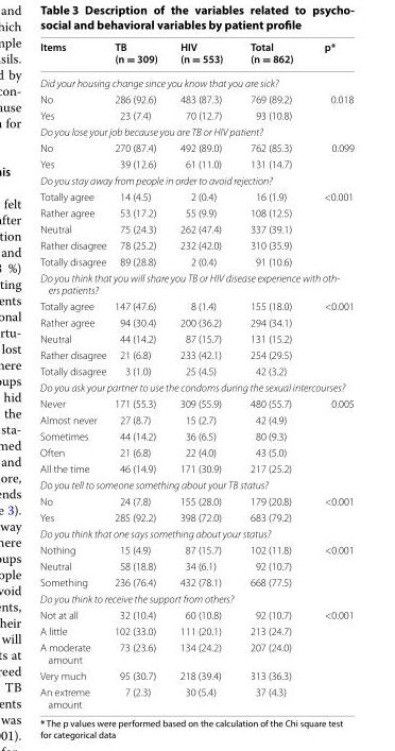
<table><thead><tr><td>Items</td><td>TB (n = 309)</td><td>HIV (n = 553)</td><td>Total (n = 862)</td><td>p*</td></tr></thead><tbody><tr><td colspan="5">Did your housing change since you know that you are sick?</td></tr><tr><td>No</td><td>286 (92.6)</td><td>483 (87.3)</td><td>769 (89.2)</td><td rowspan="2">0.018</td></tr><tr><td>Yes</td><td>23 (7.4)</td><td>70 (12.7)</td><td>93 (10.8)</td></tr><tr><td colspan="5">Do you lose your job because you are TB or HIV patient?</td></tr><tr><td>No</td><td>270 (87.4)</td><td>492 (89.0)</td><td>762 (85.3)</td><td rowspan="2">0.099</td></tr><tr><td>Yes</td><td>39 (12.6)</td><td>61 (11.0)</td><td>131 (14.7)</td></tr><tr><td colspan="5">Do you stay away from people in order to avoid rejection?</td></tr><tr><td>Totally agree</td><td>14 (4.5)</td><td>2 (0.4)</td><td>16 (1.9)</td><td rowspan="5">&lt;0.001</td></tr><tr><td>Rather agree</td><td>53 (17.2)</td><td>55 (9.9)</td><td>108 (12.5)</td></tr><tr><td>Neutral</td><td>75 (24.3)</td><td>262 (47.4)</td><td>337 (39.1)</td></tr><tr><td>Rather disagree</td><td>78 (25.2)</td><td>232 (42.0)</td><td>310 (35.9)</td></tr><tr><td>Totally disagree</td><td>89 (28.8)</td><td>2 (0.4)</td><td>91 (10.6)</td></tr><tr><td colspan="5">Do you think that you will share you TB or HIV disease experience with oth- ers patients?</td></tr><tr><td>Totally agree</td><td>147 (47.6)</td><td>8 (1.4)</td><td>155 (18.0)</td><td rowspan="5">&lt;0.001</td></tr><tr><td>Rather agree</td><td>94 (30.4)</td><td>200 (36.2)</td><td>294 (34.1)</td></tr><tr><td>Neutral</td><td>44 (14.2)</td><td>87 (15.7)</td><td>131 (15.2)</td></tr><tr><td>Rather disagree</td><td>21 (6.8)</td><td>233 (42.1)</td><td>254 (29.5)</td></tr><tr><td>Totally disagree</td><td>3 (1.0)</td><td>25 (4.5)</td><td>42 (3.2)</td></tr><tr><td colspan="5">Do you ask your partner to use the condoms during the sexual intercourses?</td></tr><tr><td>Never</td><td>171 (55.3)</td><td>309 (55.9)</td><td>480 (55.7)</td><td rowspan="5">0.005</td></tr><tr><td>Almost never</td><td>27 (8.7)</td><td>15 (2.7)</td><td>42 (4.9)</td></tr><tr><td>Sometimes</td><td>44 (14.2)</td><td>36 (6.5)</td><td>80 (9.3)</td></tr><tr><td>Often</td><td>21 (6.8)</td><td>22 (4.0)</td><td>43 (5.0)</td></tr><tr><td>All the time</td><td>46 (14.9)</td><td>171 (30.9)</td><td>217 (25.2)</td></tr><tr><td colspan="5">Do you tell to someone something about your TB status?</td></tr><tr><td>No</td><td>24 (7.8)</td><td>155 (28.0)</td><td>179 (20.8)</td><td rowspan="2">&lt;0.001</td></tr><tr><td>Yes</td><td>285 (92.2)</td><td>398 (72.0)</td><td>683 (79.2)</td></tr><tr><td colspan="5">Do you think that one says something about your status?</td></tr><tr><td>Nothing</td><td>15 (4.9)</td><td>87 (15.7)</td><td>102 (11.8)</td><td rowspan="3">&lt;0.001</td></tr><tr><td>Neutral</td><td>58 (18.8)</td><td>34 (6.1)</td><td>92 (10.7)</td></tr><tr><td>Something</td><td>236 (76.4)</td><td>432 (78.1)</td><td>668 (77.5)</td></tr><tr><td colspan="5">Do you think to receive the support from others?</td></tr><tr><td>Not at all</td><td>32 (10.4)</td><td>60 (10.8)</td><td>92 (10.7)</td><td rowspan="5">&lt;0.001</td></tr><tr><td>A little</td><td>102 (33.0)</td><td>111 (20.1)</td><td>213 (24.7)</td></tr><tr><td>A moderate amount</td><td>73 (23.6)</td><td>134 (24.2)</td><td>207 (24.0)</td></tr><tr><td>Very much</td><td>95 (30.7)</td><td>218 (39.4)</td><td>313 (36.3)</td></tr><tr><td>An extreme amount</td><td>7 (2.3)</td><td>30 (5.4)</td><td>37 (4.3)</td></tr></tbody></table>